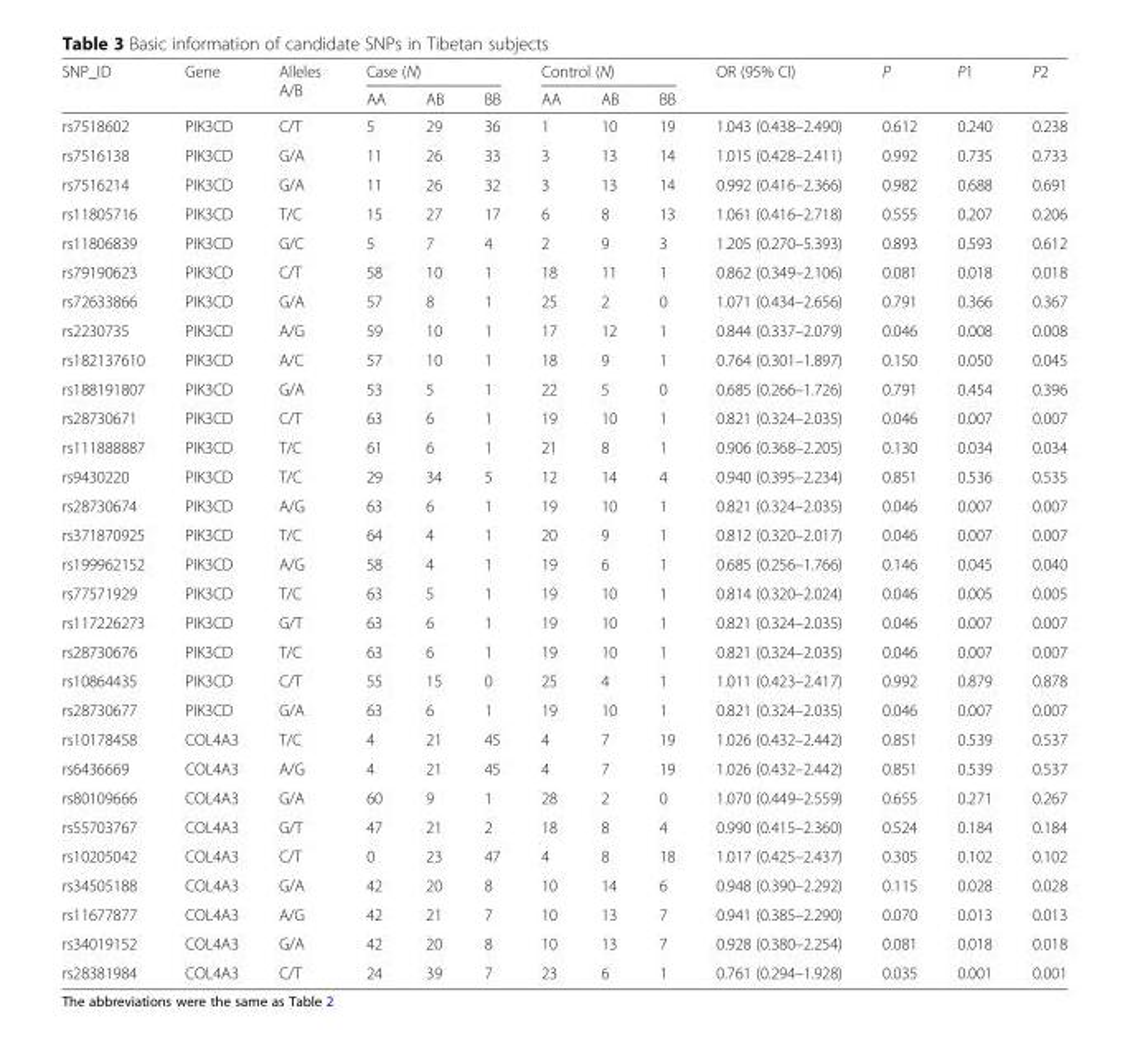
<table><thead><tr><td rowspan="2">SNP_ID</td><td rowspan="2">Gene</td><td rowspan="2">Alleles A/B</td><td colspan="3">Case (N)</td><td colspan="3">Control (N)</td><td rowspan="2">OR (95% CI)</td><td rowspan="2">P</td><td rowspan="2">P1</td><td rowspan="2">P2</td></tr><tr><td>AA</td><td>AB</td><td>BB</td><td>AA</td><td>AB</td><td>BB</td></tr></thead><tbody><tr><td>rs7518602</td><td>PIK3CD</td><td>C/T</td><td>5</td><td>29</td><td>36</td><td>1</td><td>10</td><td>19</td><td>1.043 (0.438–2.490)</td><td>0.612</td><td>0.240</td><td>0.238</td></tr><tr><td>rs7516138</td><td>PIK3CD</td><td>G/A</td><td>11</td><td>26</td><td>33</td><td>3</td><td>13</td><td>14</td><td>1.015 (0.428–2.411)</td><td>0.992</td><td>0.735</td><td>0.733</td></tr><tr><td>rs7516214</td><td>PIK3CD</td><td>G/A</td><td>11</td><td>26</td><td>32</td><td>3</td><td>13</td><td>14</td><td>0.992 (0.416–2.366)</td><td>0.982</td><td>0.688</td><td>0.691</td></tr><tr><td>rs11805716</td><td>PIK3CD</td><td>T/C</td><td>15</td><td>27</td><td>17</td><td>6</td><td>8</td><td>13</td><td>1.061 (0.416–2.718)</td><td>0.555</td><td>0.207</td><td>0.206</td></tr><tr><td>rs11806839</td><td>PIK3CD</td><td>G/C</td><td>5</td><td>7</td><td>4</td><td>2</td><td>9</td><td>3</td><td>1.205 (0.270–5.393)</td><td>0.893</td><td>0.593</td><td>0.612</td></tr><tr><td>rs79190623</td><td>PIK3CD</td><td>C/T</td><td>58</td><td>10</td><td>1</td><td>18</td><td>11</td><td>1</td><td>0.862 (0.349–2.106)</td><td>0.081</td><td>0.018</td><td>0.018</td></tr><tr><td>rs72633866</td><td>PIK3CD</td><td>G/A</td><td>57</td><td>8</td><td>1</td><td>25</td><td>2</td><td>0</td><td>1.071 (0.434–2.656)</td><td>0.791</td><td>0.366</td><td>0.367</td></tr><tr><td>rs2230735</td><td>PIK3CD</td><td>A/G</td><td>59</td><td>10</td><td>1</td><td>17</td><td>12</td><td>1</td><td>0.844 (0.337–2.079)</td><td>0.046</td><td>0.008</td><td>0.008</td></tr><tr><td>rs182137610</td><td>PIK3CD</td><td>A/C</td><td>57</td><td>10</td><td>1</td><td>18</td><td>9</td><td>1</td><td>0.764 (0.301–1.897)</td><td>0.150</td><td>0.050</td><td>0.045</td></tr><tr><td>rs188191807</td><td>PIK3CD</td><td>G/A</td><td>53</td><td>5</td><td>1</td><td>22</td><td>5</td><td>0</td><td>0.685 (0.266–1.726)</td><td>0.791</td><td>0.454</td><td>0.396</td></tr><tr><td>rs28730671</td><td>PIK3CD</td><td>C/T</td><td>63</td><td>6</td><td>1</td><td>19</td><td>10</td><td>1</td><td>0.821 (0.324–2.035)</td><td>0.046</td><td>0.007</td><td>0.007</td></tr><tr><td>rs111888887</td><td>PIK3CD</td><td>T/C</td><td>61</td><td>6</td><td>1</td><td>21</td><td>8</td><td>1</td><td>0.906 (0.368–2.205)</td><td>0.130</td><td>0.034</td><td>0.034</td></tr><tr><td>rs9430220</td><td>PIK3CD</td><td>T/C</td><td>29</td><td>34</td><td>5</td><td>12</td><td>14</td><td>4</td><td>0.940 (0.395–2.234)</td><td>0.851</td><td>0.536</td><td>0.535</td></tr><tr><td>rs28730674</td><td>PIK3CD</td><td>A/G</td><td>63</td><td>6</td><td>1</td><td>19</td><td>10</td><td>1</td><td>0.821 (0.324–2.035)</td><td>0.046</td><td>0.007</td><td>0.007</td></tr><tr><td>rs371870925</td><td>PIK3CD</td><td>T/C</td><td>64</td><td>4</td><td>1</td><td>20</td><td>9</td><td>1</td><td>0.812 (0.320–2.017)</td><td>0.046</td><td>0.007</td><td>0.007</td></tr><tr><td>rs199962152</td><td>PIK3CD</td><td>A/G</td><td>58</td><td>4</td><td>1</td><td>19</td><td>6</td><td>1</td><td>0.685 (0.256–1.766)</td><td>0.146</td><td>0.045</td><td>0.040</td></tr><tr><td>rs77571929</td><td>PIK3CD</td><td>T/C</td><td>63</td><td>5</td><td>1</td><td>19</td><td>10</td><td>1</td><td>0.814 (0.320–2.024)</td><td>0.046</td><td>0.005</td><td>0.005</td></tr><tr><td>rs117226273</td><td>PIK3CD</td><td>G/T</td><td>63</td><td>6</td><td>1</td><td>19</td><td>10</td><td>1</td><td>0.821 (0.324–2.035)</td><td>0.046</td><td>0.007</td><td>0.007</td></tr><tr><td>rs28730676</td><td>PIK3CD</td><td>T/C</td><td>63</td><td>6</td><td>1</td><td>19</td><td>10</td><td>1</td><td>0.821 (0.324–2.035)</td><td>0.046</td><td>0.007</td><td>0.007</td></tr><tr><td>rs10864435</td><td>PIK3CD</td><td>C/T</td><td>55</td><td>15</td><td>0</td><td>25</td><td>4</td><td>1</td><td>1.011 (0.423–2.417)</td><td>0.992</td><td>0.879</td><td>0.878</td></tr><tr><td>rs28730677</td><td>PIK3CD</td><td>G/A</td><td>63</td><td>6</td><td>1</td><td>19</td><td>10</td><td>1</td><td>0.821 (0.324–2.035)</td><td>0.046</td><td>0.007</td><td>0.007</td></tr><tr><td>rs10178458</td><td>COL4A3</td><td>T/C</td><td>4</td><td>21</td><td>45</td><td>4</td><td>7</td><td>19</td><td>1.026 (0.432–2.442)</td><td>0.851</td><td>0.539</td><td>0.537</td></tr><tr><td>rs6436669</td><td>COL4A3</td><td>A/G</td><td>4</td><td>21</td><td>45</td><td>4</td><td>7</td><td>19</td><td>1.026 (0.432–2.442)</td><td>0.851</td><td>0.539</td><td>0.537</td></tr><tr><td>rs80109666</td><td>COL4A3</td><td>G/A</td><td>60</td><td>9</td><td>1</td><td>28</td><td>2</td><td>0</td><td>1.070 (0.449–2.559)</td><td>0.655</td><td>0.271</td><td>0.267</td></tr><tr><td>rs55703767</td><td>COL4A3</td><td>G/T</td><td>47</td><td>21</td><td>2</td><td>18</td><td>8</td><td>4</td><td>0.990 (0.415–2.360)</td><td>0.524</td><td>0.184</td><td>0.184</td></tr><tr><td>rs10205042</td><td>COL4A3</td><td>C/T</td><td>0</td><td>23</td><td>47</td><td>4</td><td>8</td><td>18</td><td>1.017 (0.425–2.437)</td><td>0.305</td><td>0.102</td><td>0.102</td></tr><tr><td>rs34505188</td><td>COL4A3</td><td>G/A</td><td>42</td><td>20</td><td>8</td><td>10</td><td>14</td><td>6</td><td>0.948 (0.390–2.292)</td><td>0.115</td><td>0.028</td><td>0.028</td></tr><tr><td>rs11677877</td><td>COL4A3</td><td>A/G</td><td>42</td><td>21</td><td>7</td><td>10</td><td>13</td><td>7</td><td>0.941 (0.385–2.290)</td><td>0.070</td><td>0.013</td><td>0.013</td></tr><tr><td>rs34019152</td><td>COL4A3</td><td>G/A</td><td>42</td><td>20</td><td>8</td><td>10</td><td>13</td><td>7</td><td>0.928 (0.380–2.254)</td><td>0.081</td><td>0.018</td><td>0.018</td></tr><tr><td>rs28381984</td><td>COL4A3</td><td>C/T</td><td>24</td><td>39</td><td>7</td><td>23</td><td>6</td><td>1</td><td>0.761 (0.294–1.928)</td><td>0.035</td><td>0.001</td><td>0.001</td></tr></tbody></table>